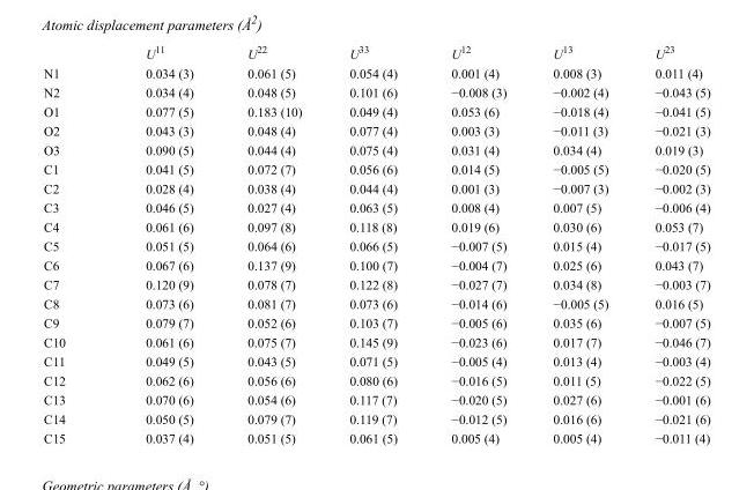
<table><thead><tr><td></td><td>U<sup>11</sup></td><td>U<sup>22</sup></td><td>U<sup>33</sup></td><td>U<sup>12</sup></td><td>U<sup>13</sup></td><td>U<sup>23</sup></td></tr></thead><tbody><tr><td>N1</td><td>0.034 (3)</td><td>0.061 (5)</td><td>0.054 (4)</td><td>0.001 (4)</td><td>0.008 (3)</td><td>0.011 (4)</td></tr><tr><td>N2</td><td>0.034 (4)</td><td>0.048 (5)</td><td>0.101 (6)</td><td>−0.008 (3)</td><td>−0.002 (4)</td><td>−0.043 (5)</td></tr><tr><td>O1</td><td>0.077 (5)</td><td>0.183 (10)</td><td>0.049 (4)</td><td>0.053 (6)</td><td>−0.018 (4)</td><td>−0.041 (5)</td></tr><tr><td>O2</td><td>0.043 (3)</td><td>0.048 (4)</td><td>0.077 (4)</td><td>0.003 (3)</td><td>−0.011 (3)</td><td>−0.021 (3)</td></tr><tr><td>O3</td><td>0.090 (5)</td><td>0.044 (4)</td><td>0.075 (4)</td><td>0.031 (4)</td><td>0.034 (4)</td><td>0.019 (3)</td></tr><tr><td>C1</td><td>0.041 (5)</td><td>0.072 (7)</td><td>0.056 (6)</td><td>0.014 (5)</td><td>−0.005 (5)</td><td>−0.020 (5)</td></tr><tr><td>C2</td><td>0.028 (4)</td><td>0.038 (4)</td><td>0.044 (4)</td><td>0.001 (3)</td><td>−0.007 (3)</td><td>−0.002 (3)</td></tr><tr><td>C3</td><td>0.046 (5)</td><td>0.027 (4)</td><td>0.063 (5)</td><td>0.008 (4)</td><td>0.007 (5)</td><td>−0.006 (4)</td></tr><tr><td>C4</td><td>0.061 (6)</td><td>0.097 (8)</td><td>0.118 (8)</td><td>0.019 (6)</td><td>0.030 (6)</td><td>0.053 (7)</td></tr><tr><td>C5</td><td>0.051 (5)</td><td>0.064 (6)</td><td>0.066 (5)</td><td>−0.007 (5)</td><td>0.015 (4)</td><td>−0.017 (5)</td></tr><tr><td>C6</td><td>0.067 (6)</td><td>0.137 (9)</td><td>0.100 (7)</td><td>−0.004 (7)</td><td>0.025 (6)</td><td>0.043 (7)</td></tr><tr><td>C7</td><td>0.120 (9)</td><td>0.078 (7)</td><td>0.122 (8)</td><td>−0.027 (7)</td><td>0.034 (8)</td><td>−0.003 (7)</td></tr><tr><td>C8</td><td>0.073 (6)</td><td>0.081 (7)</td><td>0.073 (6)</td><td>−0.014 (6)</td><td>−0.005 (5)</td><td>0.016 (5)</td></tr><tr><td>C9</td><td>0.079 (7)</td><td>0.052 (6)</td><td>0.103 (7)</td><td>−0.005 (6)</td><td>0.035 (6)</td><td>−0.007 (5)</td></tr><tr><td>C10</td><td>0.061 (6)</td><td>0.075 (7)</td><td>0.145 (9)</td><td>−0.023 (6)</td><td>0.017 (7)</td><td>−0.046 (7)</td></tr><tr><td>C11</td><td>0.049 (5)</td><td>0.043 (5)</td><td>0.071 (5)</td><td>−0.005 (4)</td><td>0.013 (4)</td><td>−0.003 (4)</td></tr><tr><td>C12</td><td>0.062 (6)</td><td>0.056 (6)</td><td>0.080 (6)</td><td>−0.016 (5)</td><td>0.011 (5)</td><td>−0.022 (5)</td></tr><tr><td>C13</td><td>0.070 (6)</td><td>0.054 (6)</td><td>0.117 (7)</td><td>−0.020 (5)</td><td>0.027 (6)</td><td>−0.001 (6)</td></tr><tr><td>C14</td><td>0.050 (5)</td><td>0.079 (7)</td><td>0.119 (7)</td><td>−0.012 (5)</td><td>0.016 (6)</td><td>−0.021 (6)</td></tr><tr><td>C15</td><td>0.037 (4)</td><td>0.051 (5)</td><td>0.061 (5)</td><td>0.005 (4)</td><td>0.005 (4)</td><td>−0.011 (4)</td></tr></tbody></table>